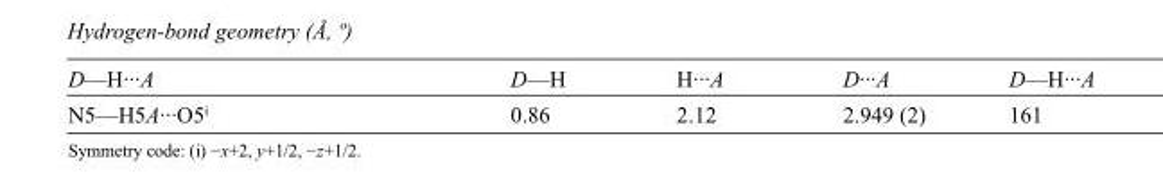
<table><tbody><tr><td>D—H···A</td><td>D—H</td><td>H···A</td><td>D···A</td><td>D—H···A</td></tr><tr><td>N5—H5A···O5<sup>i</sup></td><td>0.86</td><td>2.12</td><td>2.949 (2)</td><td>161</td></tr></tbody></table>